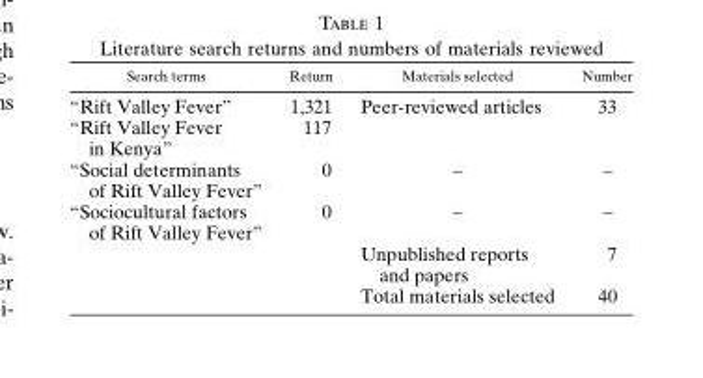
<table><thead><tr><td>Search terms</td><td>Return</td><td>Materials selected</td><td>Number</td></tr></thead><tbody><tr><td>“Rift Valley Fever”</td><td>1,321</td><td rowspan="2">Peer-reviewed articles</td><td rowspan="2">33</td></tr><tr><td>“Rift Valley Fever in Kenya”</td><td>117</td></tr><tr><td>“Social determinants of Rift Valley Fever”</td><td>0</td><td>−</td><td>−</td></tr><tr><td rowspan="3">“Sociocultural factors of Rift Valley Fever”</td><td>0</td><td>−</td><td>−</td></tr><tr><td></td><td>Unpublished reports and papers</td><td>7</td></tr><tr><td></td><td>Total materials selected</td><td>40</td></tr></tbody></table>